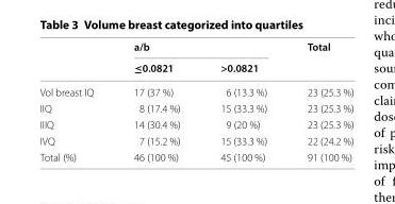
<table><thead><tr><td rowspan="2"></td><td colspan="2">a/b</td><td rowspan="2">Total</td></tr><tr><td>≤0.0821</td><td>&gt;0.0821</td></tr></thead><tbody><tr><td>Vol breast IQ</td><td>17 (37 %)</td><td>6 (13.3 %)</td><td>23 (25.3 %)</td></tr><tr><td>IIQ</td><td>8 (17.4 %)</td><td>15 (33.3 %)</td><td>23 (25.3 %)</td></tr><tr><td>IIIQ</td><td>14 (30.4 %)</td><td>9 (20 %)</td><td>23 (25.3 %)</td></tr><tr><td>IVQ</td><td>7 (15.2 %)</td><td>15 (33.3 %)</td><td>22 (24.2 %)</td></tr><tr><td>Total (%)</td><td>46 (100 %)</td><td>45 (100 %)</td><td>91 (100 %)</td></tr></tbody></table>